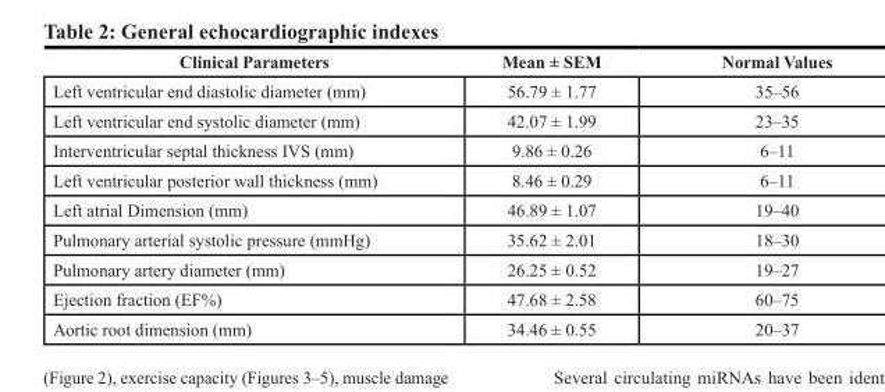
<table><thead><tr><td>Clinical Parameters</td><td>Mean ± SEM</td><td>Normal Values</td></tr></thead><tbody><tr><td>Left ventricular end diastolic diameter (mm)</td><td>56.79 ± 1.77</td><td>35–56</td></tr><tr><td>Left ventricular end systolic diameter (mm)</td><td>42.07 ± 1.99</td><td>23–35</td></tr><tr><td>Interventricular septal thickness IVS (mm)</td><td>9.86 ± 0.26</td><td>6–11</td></tr><tr><td>Left ventricular posterior wall thickness (mm)</td><td>8.46 ± 0.29</td><td>6–11</td></tr><tr><td>Left atrial Dimension (mm)</td><td>46.89 ± 1.07</td><td>19–40</td></tr><tr><td>Pulmonary arterial systolic pressure (mmHg)</td><td>35.62 ± 2.01</td><td>18–30</td></tr><tr><td>Pulmonary artery diameter (mm)</td><td>26.25 ± 0.52</td><td>19–27</td></tr><tr><td>Ejection fraction (EF%)</td><td>47.68 ± 2.58</td><td>60–75</td></tr><tr><td>Aortic root dimension (mm)</td><td>34.46 ± 0.55</td><td>20–37</td></tr></tbody></table>